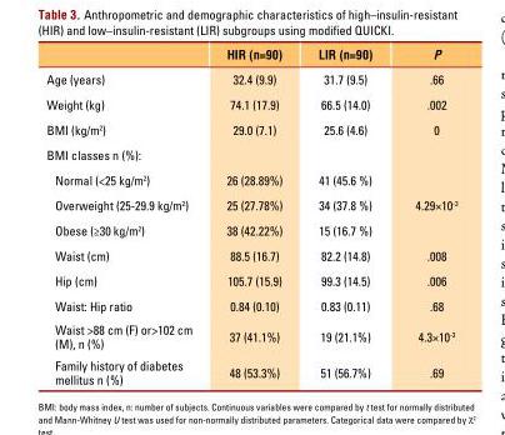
<table><thead><tr><td></td><td>HIR (n=90)</td><td>LIR (n=90)</td><td>P</td></tr></thead><tbody><tr><td>Age (years)</td><td>32.4 (9.9)</td><td>31.7 (9.5)</td><td>.66</td></tr><tr><td>Weight (kg)</td><td>74.1 (17.9)</td><td>66.5 (14.0)</td><td>.002</td></tr><tr><td>BMI (kg/m<sup>2</sup>)</td><td>29.0 (7.1)</td><td>25.6 (4.6)</td><td>0</td></tr><tr><td colspan="4">BMI classes n (%):</td></tr><tr><td>Normal (&lt;25 kg/m<sup>2</sup>)</td><td>26 (28.89%)</td><td>41 (45.6 %)</td><td></td></tr><tr><td>Overweight (25-29.9 kg/m<sup>2</sup>)</td><td>25 (27.78%)</td><td>34 (37.8 %)</td><td>4.29×10<sup>-3</sup></td></tr><tr><td>Obese (≥30 kg/m<sup>2</sup>)</td><td>38 (42.22%)</td><td>15 (16.7 %)</td><td></td></tr><tr><td>Waist (cm)</td><td>88.5 (16.7)</td><td>82.2 (14.8)</td><td>.008</td></tr><tr><td>Hip (cm)</td><td>105.7 (15.9)</td><td>99.3 (14.5)</td><td>.006</td></tr><tr><td>Waist: Hip ratio</td><td>0.84 (0.10)</td><td>0.83 (0.11)</td><td>.68</td></tr><tr><td>Waist &gt;88 cm (F) or&gt;102 cm (M), n (%)</td><td>37 (41.1%)</td><td>19 (21.1%)</td><td>4.3×10<sup>-3</sup></td></tr><tr><td>Family history of diabetes mellitus n (%)</td><td>48 (53.3%)</td><td>51 (56.7%)</td><td>.69</td></tr></tbody></table>